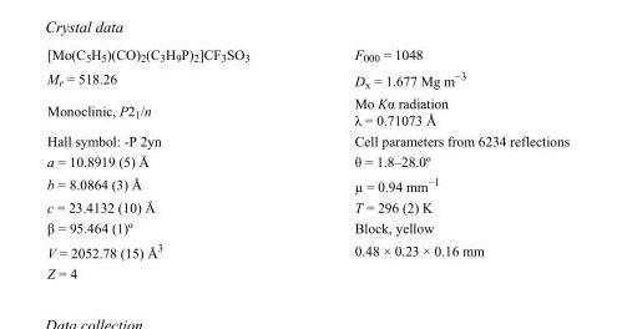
<table><tbody><tr><td>[Mo(C<sub>5</sub>H<sub>5</sub>)(CO)<sub>2</sub>(C<sub>3</sub>H<sub>9</sub>P)<sub>2</sub>]CF<sub>3</sub>SO<sub>3</sub></td><td>F000 = 1048</td></tr><tr><td>M<sub>r</sub> = 518.26</td><td>D<sub>x</sub> = 1.677 Mg m<sup>−3</sup></td></tr><tr><td>Monoclinic, P2<sub>1</sub>/n</td><td>Mo Kα radiation λ = 0.71073 Å</td></tr><tr><td>Hall symbol: -P 2yn</td><td>Cell parameters from 6234 reflections</td></tr><tr><td>a = 10.8919 (5) Å</td><td>θ = 1.8–28.0º</td></tr><tr><td>b = 8.0864 (3) Å</td><td>µ = 0.94 mm<sup>−1</sup></td></tr><tr><td>c = 23.4132 (10) Å</td><td>T = 296 (2) K</td></tr><tr><td>β = 95.464 (1)º</td><td>Block, yellow</td></tr><tr><td>V = 2052.78 (15) Å<sup>3</sup></td><td>0.48 × 0.23 × 0.16 mm</td></tr><tr><td>Z = 4</td><td></td></tr></tbody></table>